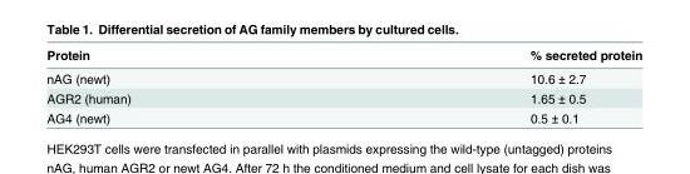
<table><thead><tr><td>Protein</td><td>% secreted protein</td></tr></thead><tbody><tr><td>nAG (newt)</td><td>10.6 ± 2.7</td></tr><tr><td>AGR2 (human)</td><td>1.65 ± 0.5</td></tr><tr><td>AG4 (newt)</td><td>0.5 ± 0.1</td></tr></tbody></table>